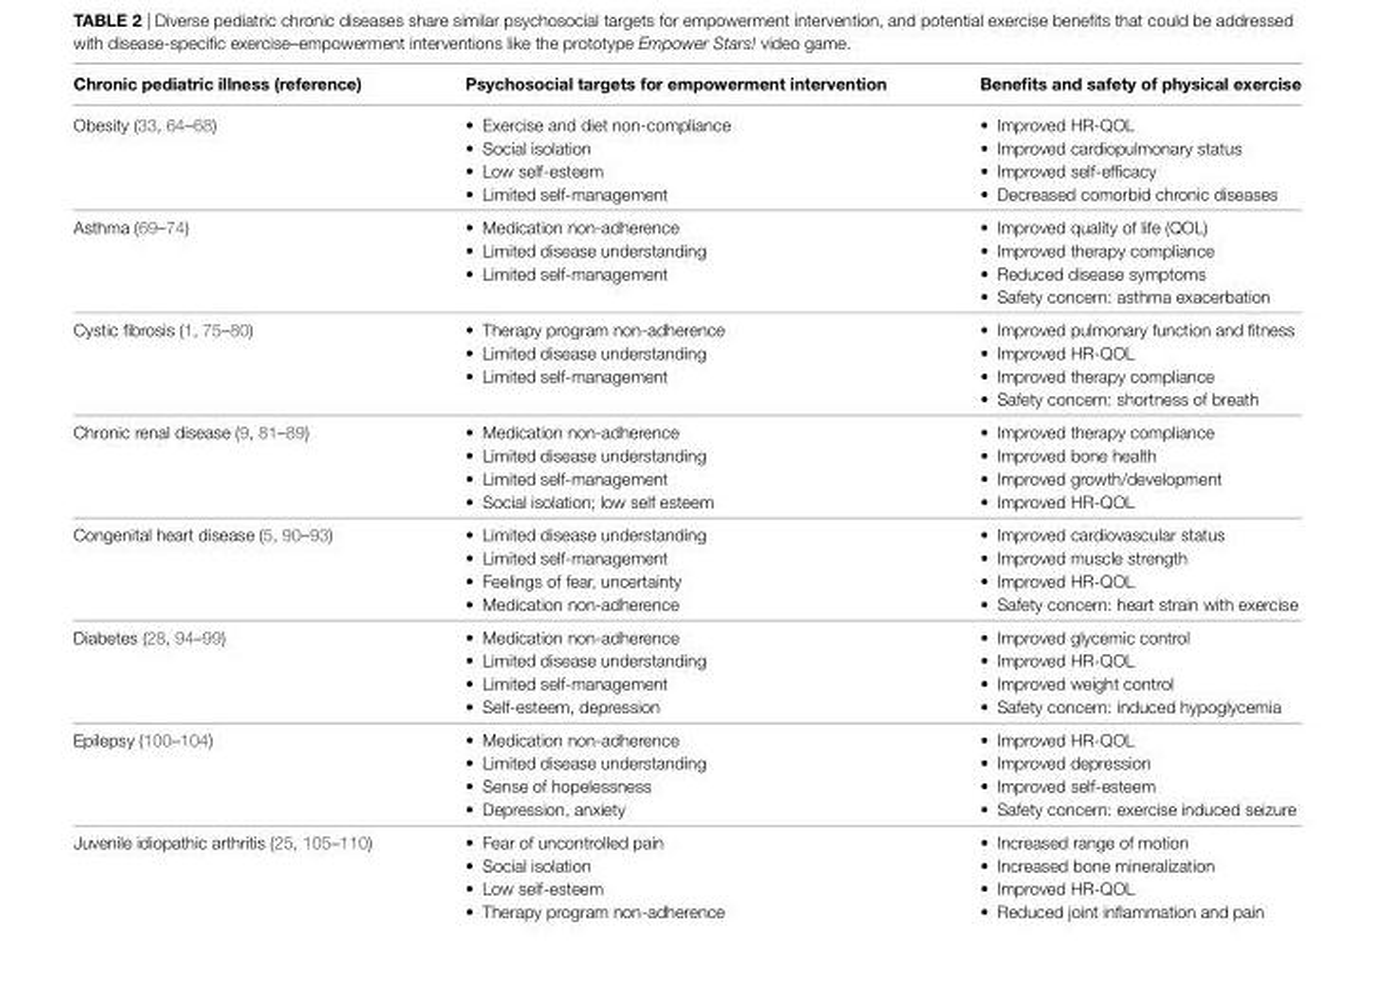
<table><thead><tr><td>chronic pediatric illness (reference)</td><td>Psychosocial targets for empowerment intervention</td><td>Benefits and safety of physical exercise</td></tr></thead><tbody><tr><td>Obesity (33, 64–68)</td><td>• Exercise and diet non-compliance • Social isolation • Low self-esteem • Limited self-management</td><td>• Improved HR-QOL • Improved cardiopulmonary status • Improved self-efficacy • Decreased comorbid chronic diseases</td></tr><tr><td>Asthma (69–74)</td><td>• Medication non-adherence • Limited disease understanding • Limited self-management</td><td>• Improved quality of life (QOL) • Improved therapy compliance • Reduced disease symptoms • Safety concern: asthma exacerbation</td></tr><tr><td>Cystic fibrosis (1, 75–80)</td><td>• Therapy program non-adherence • Limited disease understanding • Limited self-management</td><td>• Improved pulmonary function and fitness • Improved HR-QOL • Improved therapy compliance • Safety concern: shortness of breath</td></tr><tr><td>Chronic renal disease (9, 81–89)</td><td>• Medication non-adherence • Limited disease understanding • Limited self-management • Social isolation; low self esteem</td><td>• Improved therapy compliance • Improved bone health • Improved growth/development • Improved HR-QOL</td></tr><tr><td>Congenital heart disease (5, 90–93)</td><td>• Limited disease understanding • Limited self-management • Feelings of fear, uncertainty • Medication non-adherence</td><td>• Improved cardiovascular status • Improved muscle strength • Improved HR-QOL • Safety concern: heart strain with exercise</td></tr><tr><td>Diabetes (28, 94–99)</td><td>• Medication non-adherence • Limited disease understanding • Limited self-management • Self-esteem, depression</td><td>• Improved glycemic control • Improved HR-QOL • Improved weight control • Safety concern: induced hypoglycemia</td></tr><tr><td>Epilepsy (100–104)</td><td>• Medication non-adherence • Limited disease understanding • Sense of hopelessness • Depression, anxiety</td><td>• Improved HR-QOL • Improved depression • Improved self-esteem • Safety concern: exercise induced seizure</td></tr><tr><td>Juvenile idiopathic arthritis (25, 105–110)</td><td>• Fear of uncontrolled pain • Social isolation • Low self-esteem • Therapy program non-adherence</td><td>• Increased range of motion • Increased bone mineralization • Improved HR-QOL • Reduced joint inflammation and pain</td></tr></tbody></table>